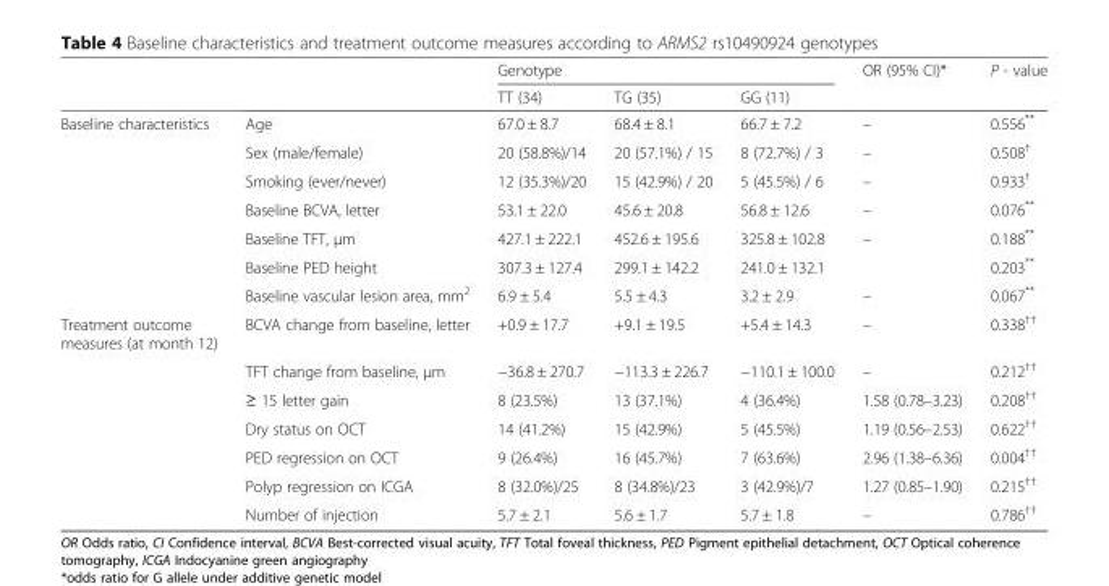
<table><thead><tr><td rowspan="2"></td><td rowspan="2"></td><td colspan="3">Genotype</td><td rowspan="2">OR (95% CI)*</td><td rowspan="2">P - value</td></tr><tr><td>TT (34)</td><td>TG (35)</td><td>GG (11)</td></tr></thead><tbody><tr><td rowspan="7">Baseline characteristics</td><td>Age</td><td>67.0 ± 8.7</td><td>68.4 ± 8.1</td><td>66.7 ± 7.2</td><td>–</td><td>0.556**</td></tr><tr><td>Sex (male/female)</td><td>20 (58.8%)/14</td><td>20 (57.1%) / 15</td><td>8 (72.7%) / 3</td><td>–</td><td>0.508<sup>†</sup></td></tr><tr><td>Smoking (ever/never)</td><td>12 (35.3%)/20</td><td>15 (42.9%) / 20</td><td>5 (45.5%) / 6</td><td>–</td><td>0.933<sup>†</sup></td></tr><tr><td>Baseline BCVA, letter</td><td>53.1 ± 22.0</td><td>45.6 ± 20.8</td><td>56.8 ± 12.6</td><td>–</td><td>0.076**</td></tr><tr><td>Baseline TFT, μm</td><td>427.1 ± 222.1</td><td>452.6 ± 195.6</td><td>325.8 ± 102.8</td><td>–</td><td>0.188**</td></tr><tr><td>Baseline PED height</td><td>307.3 ± 127.4</td><td>299.1 ± 142.2</td><td>241.0 ± 132.1</td><td></td><td>0.203**</td></tr><tr><td>Baseline vascular lesion area, mm<sup>2</sup></td><td>6.9 ± 5.4</td><td>5.5 ± 4.3</td><td>3.2 ± 2.9</td><td>–</td><td>0.067**</td></tr><tr><td rowspan="7">Treatment outcome measures (at month 12)</td><td>BCVA change from baseline, letter</td><td>+0.9 ± 17.7</td><td>+9.1 ± 19.5</td><td>+5.4 ± 14.3</td><td>–</td><td>0.338<sup>††</sup></td></tr><tr><td>TFT change from baseline, μm</td><td>−36.8 ± 270.7</td><td>−113.3 ± 226.7</td><td>−110.1 ± 100.0</td><td>–</td><td>0.212<sup>††</sup></td></tr><tr><td>≥ 15 letter gain</td><td>8 (23.5%)</td><td>13 (37.1%)</td><td>4 (36.4%)</td><td>1.58 (0.78–3.23)</td><td>0.208<sup>††</sup></td></tr><tr><td>Dry status on OCT</td><td>14 (41.2%)</td><td>15 (42.9%)</td><td>5 (45.5%)</td><td>1.19 (0.56–2.53)</td><td>0.622<sup>††</sup></td></tr><tr><td>PED regression on OCT</td><td>9 (26.4%)</td><td>16 (45.7%)</td><td>7 (63.6%)</td><td>2.96 (1.38–6.36)</td><td>0.004<sup>††</sup></td></tr><tr><td>Polyp regression on ICGA</td><td>8 (32.0%)/25</td><td>8 (34.8%)/23</td><td>3 (42.9%)/7</td><td>1.27 (0.85–1.90)</td><td>0.215<sup>††</sup></td></tr><tr><td>Number of injection</td><td>5.7 ± 2.1</td><td>5.6 ± 1.7</td><td>5.7 ± 1.8</td><td>–</td><td>0.786<sup>††</sup></td></tr></tbody></table>